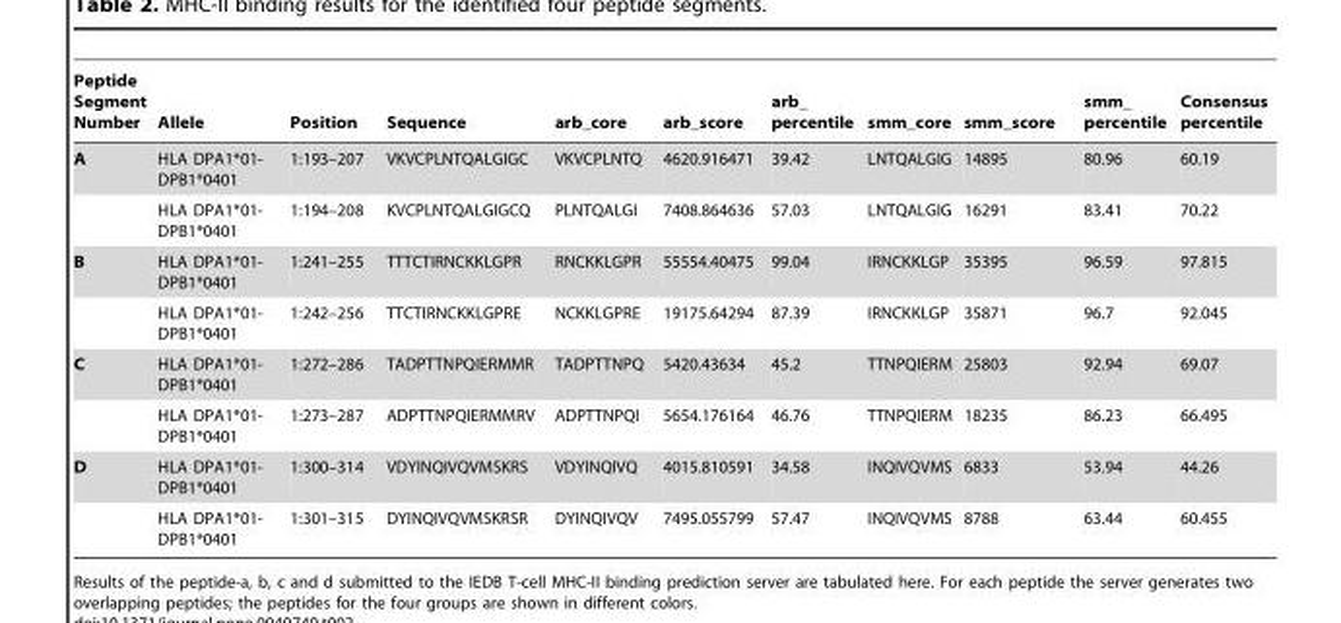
<table><thead><tr><td>Peptide Segment Number</td><td>Allele</td><td>Position</td><td>Sequence</td><td>arb_core</td><td>arb_score</td><td>arb_ percentile</td><td>smm_core</td><td>smm_score</td><td>smm_ percentile</td><td>Consensus percentile</td></tr></thead><tbody><tr><td rowspan="2">A</td><td>HLA DPA1*01- DPB1*0401</td><td>1:193–207</td><td>VKVCPLNTQALGIGC</td><td>VKVCPLNTQ</td><td>4620.916471</td><td>39.42</td><td>LNTQALGIG</td><td>14895</td><td>80.96</td><td>60.19</td></tr><tr><td>HLA DPA1*01- DPB1*0401</td><td>1:194–208</td><td>KVCPLNTQALGIGCQ</td><td>PLNTQALGI</td><td>7408.864636</td><td>57.03</td><td>LNTQALGIG</td><td>16291</td><td>83.41</td><td>70.22</td></tr><tr><td rowspan="2">B</td><td>HLA DPA1*01- DPB1*0401</td><td>1:241–255</td><td>TTTCTIRNCKKLGPR</td><td>RNCKKLGPR</td><td>55554.40475</td><td>99.04</td><td>IRNCKKLGP</td><td>35395</td><td>96.59</td><td>97.815</td></tr><tr><td>HLA DPA1*01- DPB1*0401</td><td>1:242–256</td><td>TTCTIRNCKKLGPRE</td><td>NCKKLGPRE</td><td>19175.64294</td><td>87.39</td><td>IRNCKKLGP</td><td>35871</td><td>96.7</td><td>92.045</td></tr><tr><td rowspan="2">C</td><td>HLA DPA1*01- DPB1*0401</td><td>1:272–286</td><td>TADPTTNPQIERMMR</td><td>TADPTTNPQ</td><td>5420.43634</td><td>45.2</td><td>TTNPQIERM</td><td>25803</td><td>92.94</td><td>69.07</td></tr><tr><td>HLA DPA1*01- DPB1*0401</td><td>1:273–287</td><td>ADPTTNPQIERMMRV</td><td>ADPTTNPQI</td><td>5654.176164</td><td>46.76</td><td>TTNPQIERM</td><td>18235</td><td>86.23</td><td>66.495</td></tr><tr><td rowspan="2">D</td><td>HLA DPA1*01- DPB1*0401</td><td>1:300–314</td><td>VDYINQIVQVMSKRS</td><td>VDYINQIVQ</td><td>4015.810591</td><td>34.58</td><td>INQIVQVMS</td><td>6833</td><td>53.94</td><td>44.26</td></tr><tr><td>HLA DPA1*01- DPB1*0401</td><td>1:301–315</td><td>DYINQIVQVMSKRSR</td><td>DYINQIVQV</td><td>7495.055799</td><td>57.47</td><td>INQIVQVMS</td><td>8788</td><td>63.44</td><td>60.455</td></tr></tbody></table>